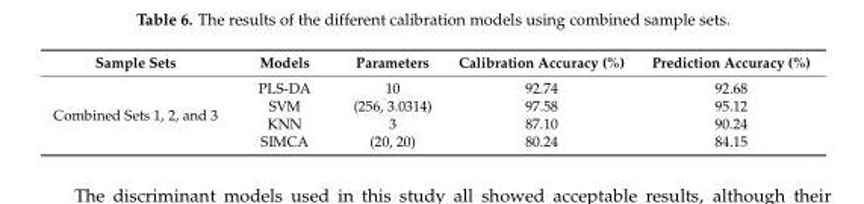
<table><thead><tr><td>Sample Sets</td><td>Models</td><td>Parameters</td><td>Calibration Accuracy (%)</td><td>Prediction Accuracy (%)</td></tr></thead><tbody><tr><td rowspan="4">Combined Sets 1, 2, and 3</td><td>PLS-DA</td><td>10</td><td>92.74</td><td>92.68</td></tr><tr><td>SVM</td><td>(256, 3.0314)</td><td>97.58</td><td>95.12</td></tr><tr><td>KNN</td><td>3</td><td>87.10</td><td>90.24</td></tr><tr><td>SIMCA</td><td>(20, 20)</td><td>80.24</td><td>84.15</td></tr></tbody></table>